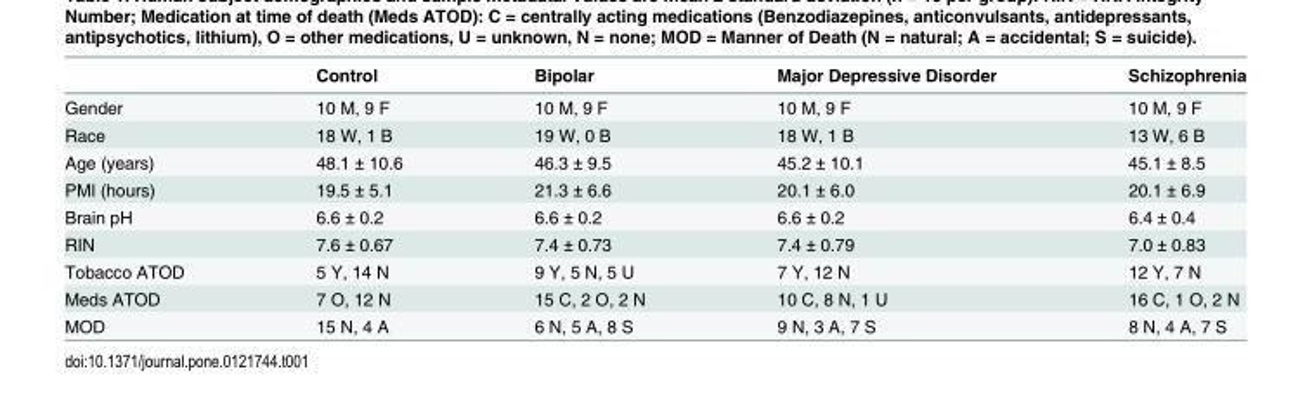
<table><thead><tr><td></td><td>Control</td><td>Bipolar</td><td>Major Depressive Disorder</td><td>Schizophrenia</td></tr></thead><tbody><tr><td>Gender</td><td>10 M, 9 F</td><td>10 M, 9 F</td><td>10 M, 9 F</td><td>10 M, 9 F</td></tr><tr><td>Race</td><td>18 W, 1 B</td><td>19 W, 0 B</td><td>18 W, 1 B</td><td>13 W, 6 B</td></tr><tr><td>Age (years)</td><td>48.1 ± 10.6</td><td>46.3 ± 9.5</td><td>45.2 ± 10.1</td><td>45.1 ± 8.5</td></tr><tr><td>PMI (hours)</td><td>19.5 ± 5.1</td><td>21.3 ± 6.6</td><td>20.1 ± 6.0</td><td>20.1 ± 6.9</td></tr><tr><td>Brain pH</td><td>6.6 ± 0.2</td><td>6.6 ± 0.2</td><td>6.6 ± 0.2</td><td>6.4 ± 0.4</td></tr><tr><td>RIN</td><td>7.6 ± 0.67</td><td>7.4 ± 0.73</td><td>7.4 ± 0.79</td><td>7.0 ± 0.83</td></tr><tr><td>Tobacco ATOD</td><td>5 Y, 14 N</td><td>9 Y, 5 N, 5 U</td><td>7 Y, 12 N</td><td>12 Y, 7 N</td></tr><tr><td>Meds ATOD</td><td>7 O, 12 N</td><td>15 C, 2 O, 2 N</td><td>10 C, 8 N, 1 U</td><td>16 C, 1 O, 2 N</td></tr><tr><td>MOD</td><td>15 N, 4 A</td><td>6 N, 5 A, 8 S</td><td>9 N, 3 A, 7 S</td><td>8 N, 4 A, 7 S</td></tr></tbody></table>